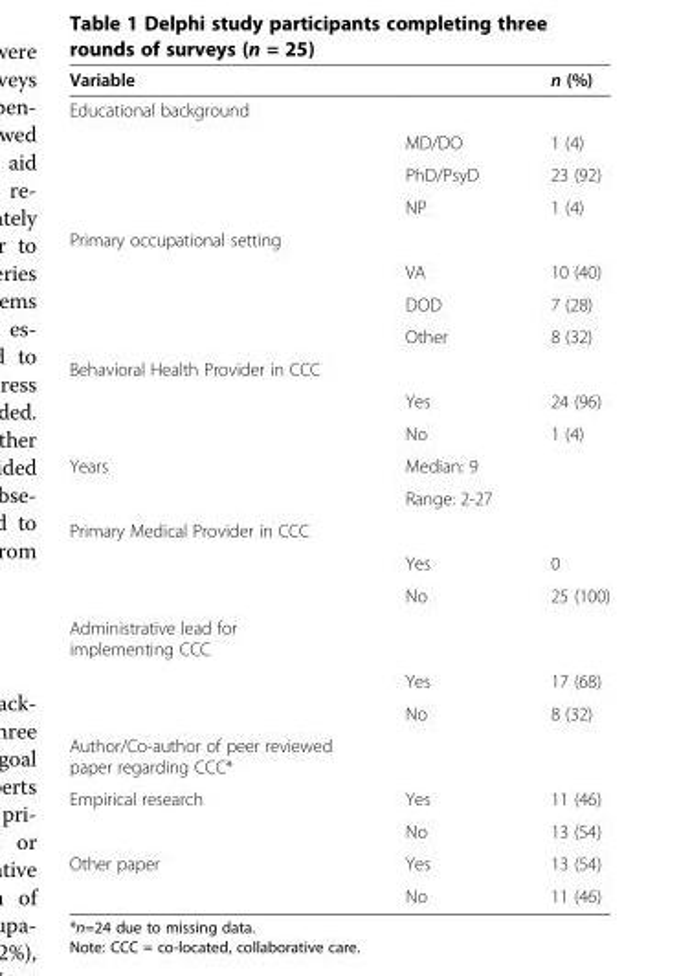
<table><thead><tr><td>Variable</td><td></td><td>n (%)</td></tr></thead><tbody><tr><td colspan="3">Educational background</td></tr><tr><td></td><td>MD/DO</td><td>1 (4)</td></tr><tr><td></td><td>PhD/PsyD</td><td>23 (92)</td></tr><tr><td></td><td>NP</td><td>1 (4)</td></tr><tr><td colspan="3">Primary occupational setting</td></tr><tr><td></td><td>VA</td><td>10 (40)</td></tr><tr><td></td><td>DOD</td><td>7 (28)</td></tr><tr><td></td><td>Other</td><td>8 (32)</td></tr><tr><td colspan="3">Behavioral Health Provider in CCC</td></tr><tr><td></td><td>Yes</td><td>24 (96)</td></tr><tr><td></td><td>No</td><td>1 (4)</td></tr><tr><td rowspan="2">Years</td><td>Median: 9</td><td></td></tr><tr><td>Range: 2-27</td><td></td></tr><tr><td colspan="3">Primary Medical Provider in CCC</td></tr><tr><td></td><td>Yes</td><td>0</td></tr><tr><td></td><td>No</td><td>25 (100)</td></tr><tr><td colspan="3">Administrative lead for implementing CCC</td></tr><tr><td></td><td>Yes</td><td>17 (68)</td></tr><tr><td></td><td>No</td><td>8 (32)</td></tr><tr><td colspan="3">Author/Co-author of peer reviewed paper regarding CCC*</td></tr><tr><td rowspan="2">Empirical research</td><td>Yes</td><td>11 (46)</td></tr><tr><td>No</td><td>13 (54)</td></tr><tr><td rowspan="2">Other paper</td><td>Yes</td><td>13 (54)</td></tr><tr><td>No</td><td>11 (46)</td></tr></tbody></table>